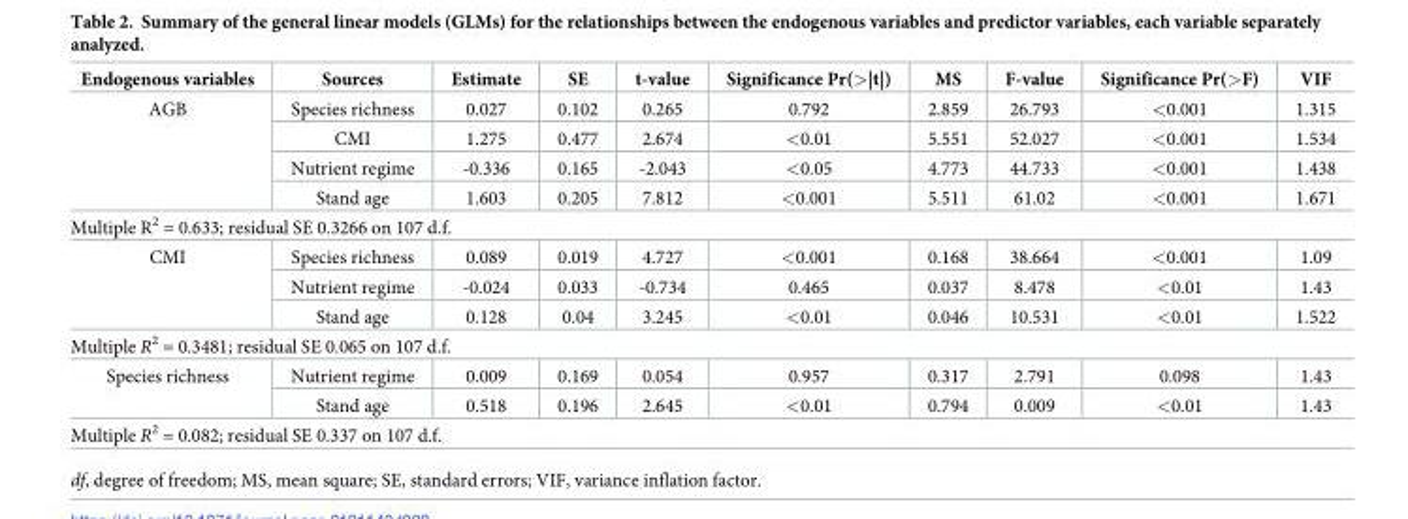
<table><thead><tr><td>Endogenous variables</td><td>Sources</td><td>Estimate</td><td>SE</td><td>t-value</td><td>Significance Pr(&gt;|t|)</td><td>MS</td><td>F-value</td><td>Significance Pr(&gt;F)</td><td>VIF</td></tr></thead><tbody><tr><td rowspan="4">AGB</td><td>Species richness</td><td>0.027</td><td>0.102</td><td>0.265</td><td>0.792</td><td>2.859</td><td>26.793</td><td>&lt;0.001</td><td>1.315</td></tr><tr><td>CMI</td><td>1.275</td><td>0.477</td><td>2.674</td><td>&lt;0.01</td><td>5.551</td><td>52.027</td><td>&lt;0.001</td><td>1.534</td></tr><tr><td>Nutrient regime</td><td>-0.336</td><td>0.165</td><td>-2.043</td><td>&lt;0.05</td><td>4.773</td><td>44.733</td><td>&lt;0.001</td><td>1.438</td></tr><tr><td>Stand age</td><td>1.603</td><td>0.205</td><td>7.812</td><td>&lt;0.001</td><td>5.511</td><td>61.02</td><td>&lt;0.001</td><td>1.671</td></tr><tr><td colspan="10">Multiple R<sup>2</sup> = 0.633; residual SE 0.3266 on 107 d.f.</td></tr><tr><td rowspan="3">CMI</td><td>Species richness</td><td>0.089</td><td>0.019</td><td>4.727</td><td>&lt;0.001</td><td>0.168</td><td>38.664</td><td>&lt;0.001</td><td>1.09</td></tr><tr><td>Nutrient regime</td><td>-0.024</td><td>0.033</td><td>-0.734</td><td>0.465</td><td>0.037</td><td>8.478</td><td>&lt;0.01</td><td>1.43</td></tr><tr><td>Stand age</td><td>0.128</td><td>0.04</td><td>3.245</td><td>&lt;0.01</td><td>0.046</td><td>10.531</td><td>&lt;0.01</td><td>1.522</td></tr><tr><td colspan="10">Multiple R<sup>2</sup> = 0.3481; residual SE 0.065 on 107 d.f.</td></tr><tr><td rowspan="2">Species richness</td><td>Nutrient regime</td><td>0.009</td><td>0.169</td><td>0.054</td><td>0.957</td><td>0.317</td><td>2.791</td><td>0.098</td><td>1.43</td></tr><tr><td>Stand age</td><td>0.518</td><td>0.196</td><td>2.645</td><td>&lt;0.01</td><td>0.794</td><td>0.009</td><td>&lt;0.01</td><td>1.43</td></tr><tr><td colspan="10">Multiple R<sup>2</sup> = 0.082; residual SE 0.337 on 107 d.f.</td></tr></tbody></table>